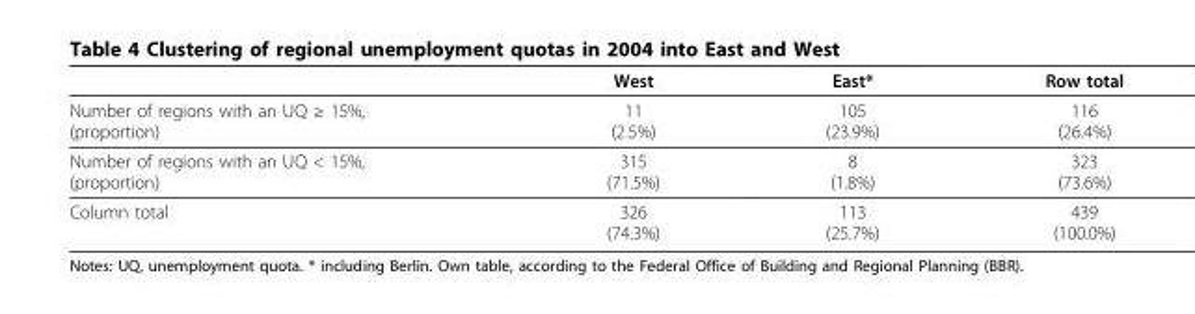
<table><thead><tr><td></td><td>West</td><td>East*</td><td>Row total</td></tr></thead><tbody><tr><td>Number of regions with an UQ ≥ 15%, (proportion)</td><td>11 (2.5%)</td><td>105 (23.9%)</td><td>116 (26.4%)</td></tr><tr><td>Number of regions with an UQ &lt; 15%, (proportion)</td><td>315 (71.5%)</td><td>8 (1.8%)</td><td>323 (73.6%)</td></tr><tr><td>Column total</td><td>326 (74.3%)</td><td>113 (25.7%)</td><td>439 (100.0%)</td></tr></tbody></table>